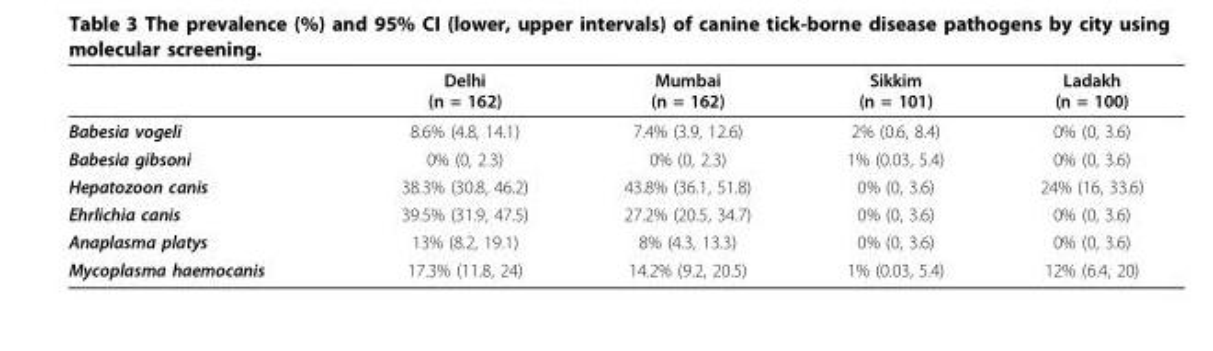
<table><thead><tr><td></td><td>Delhi (n = 162)</td><td>Mumbai (n = 162)</td><td>Sikkim (n = 101)</td><td>Ladakh (n = 100)</td></tr></thead><tbody><tr><td>Babesia vogeli</td><td>8.6% (4.8, 14.1)</td><td>7.4% (3.9, 12.6)</td><td>2% (0.6, 8.4)</td><td>0% (0, 3.6)</td></tr><tr><td>Babesia gibsoni</td><td>0% (0, 2.3)</td><td>0% (0, 2.3)</td><td>1% (0.03, 5.4)</td><td>0% (0, 3.6)</td></tr><tr><td>Hepatozoon canis</td><td>38.3% (30.8, 46.2)</td><td>43.8% (36.1, 51.8)</td><td>0% (0, 3.6)</td><td>24% (16, 33.6)</td></tr><tr><td>Ehrlichia canis</td><td>39.5% (31.9, 47.5)</td><td>27.2% (20.5, 34.7)</td><td>0% (0, 3.6)</td><td>0% (0, 3.6)</td></tr><tr><td>Anaplasma platys</td><td>13% (8.2, 19.1)</td><td>8% (4.3, 13.3)</td><td>0% (0, 3.6)</td><td>0% (0, 3.6)</td></tr><tr><td>Mycoplasma haemocanis</td><td>17.3% (11.8, 24)</td><td>14.2% (9.2, 20.5)</td><td>1% (0.03, 5.4)</td><td>12% (6.4, 20)</td></tr></tbody></table>